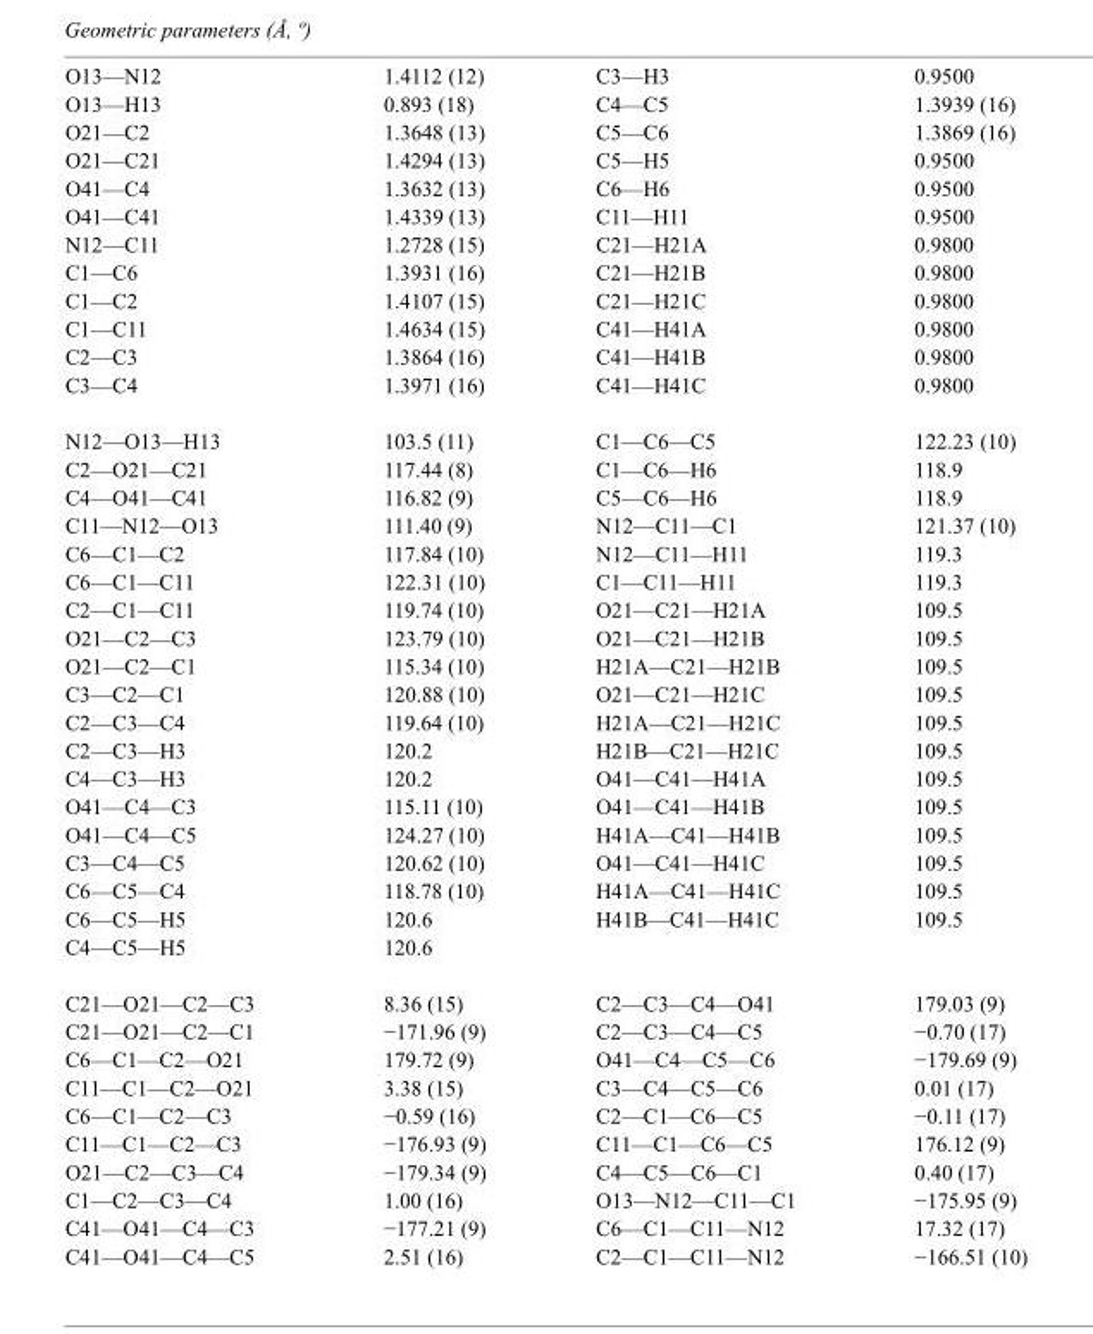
<table><tbody><tr><td>O13—N12</td><td>1.4112 (12)</td><td>C3—H3</td><td>0.9500</td></tr><tr><td>O13—H13</td><td>0.893 (18)</td><td>C4—C5</td><td>1.3939 (16)</td></tr><tr><td>O21—C2</td><td>1.3648 (13)</td><td>C5—C6</td><td>1.3869 (16)</td></tr><tr><td>O21—C21</td><td>1.4294 (13)</td><td>C5—H5</td><td>0.9500</td></tr><tr><td>O41—C4</td><td>1.3632 (13)</td><td>C6—H6</td><td>0.9500</td></tr><tr><td>O41—C41</td><td>1.4339 (13)</td><td>C11—H11</td><td>0.9500</td></tr><tr><td>N12—C11</td><td>1.2728 (15)</td><td>C21—H21A</td><td>0.9800</td></tr><tr><td>C1—C6</td><td>1.3931 (16)</td><td>C21—H21B</td><td>0.9800</td></tr><tr><td>C1—C2</td><td>1.4107 (15)</td><td>C21—H21C</td><td>0.9800</td></tr><tr><td>C1—C11</td><td>1.4634 (15)</td><td>C41—H41A</td><td>0.9800</td></tr><tr><td>C2—C3</td><td>1.3864 (16)</td><td>C41—H41B</td><td>0.9800</td></tr><tr><td>C3—C4</td><td>1.3971 (16)</td><td>C41—H41C</td><td>0.9800</td></tr><tr><td>N12—O13—H13</td><td>103.5 (11)</td><td>C1—C6—C5</td><td>122.23 (10)</td></tr><tr><td>C2—O21—C21</td><td>117.44 (8)</td><td>C1—C6—H6</td><td>118.9</td></tr><tr><td>C4—O41—C41</td><td>116.82 (9)</td><td>C5—C6—H6</td><td>118.9</td></tr><tr><td>C11—N12—O13</td><td>111.40 (9)</td><td>N12—C11—C1</td><td>121.37 (10)</td></tr><tr><td>C6—C1—C2</td><td>117.84 (10)</td><td>N12—C11—H11</td><td>119.3</td></tr><tr><td>C6—C1—C11</td><td>122.31 (10)</td><td>C1—C11—H11</td><td>119.3</td></tr><tr><td>C2—C1—C11</td><td>119.74 (10)</td><td>O21—C21—H21A</td><td>109.5</td></tr><tr><td>O21—C2—C3</td><td>123.79 (10)</td><td>O21—C21—H21B</td><td>109.5</td></tr><tr><td>O21—C2—C1</td><td>115.34 (10)</td><td>H21A—C21—H21B</td><td>109.5</td></tr><tr><td>C3—C2—C1</td><td>120.88 (10)</td><td>O21—C21—H21C</td><td>109.5</td></tr><tr><td>C2—C3—C4</td><td>119.64 (10)</td><td>H21A—C21—H21C</td><td>109.5</td></tr><tr><td>C2—C3—H3</td><td>120.2</td><td>H21B—C21—H21C</td><td>109.5</td></tr><tr><td>C4—C3—H3</td><td>120.2</td><td>O41—C41—H41A</td><td>109.5</td></tr><tr><td>O41—C4—C3</td><td>115.11 (10)</td><td>O41—C41—H41B</td><td>109.5</td></tr><tr><td>O41—C4—C5</td><td>124.27 (10)</td><td>H41A—C41—H41B</td><td>109.5</td></tr><tr><td>C3—C4—C5</td><td>120.62 (10)</td><td>O41—C41—H41C</td><td>109.5</td></tr><tr><td>C6—C5—C4</td><td>118.78 (10)</td><td>H41A—C41—H41C</td><td>109.5</td></tr><tr><td>C6—C5—H5</td><td>120.6</td><td>H41B—C41—H41C</td><td>109.5</td></tr><tr><td>C4—C5—H5</td><td>120.6</td><td></td><td></td></tr><tr><td>C21—O21—C2—C3</td><td>8.36 (15)</td><td>C2—C3—C4—O41</td><td>179.03 (9)</td></tr><tr><td>C21—O21—C2—C1</td><td>−171.96 (9)</td><td>C2—C3—C4—C5</td><td>−0.70 (17)</td></tr><tr><td>C6—C1—C2—O21</td><td>179.72 (9)</td><td>O41—C4—C5—C6</td><td>−179.69 (9)</td></tr><tr><td>C11—C1—C2—O21</td><td>3.38 (15)</td><td>C3—C4—C5—C6</td><td>0.01 (17)</td></tr><tr><td>C6—C1—C2—C3</td><td>−0.59 (16)</td><td>C2—C1—C6—C5</td><td>−0.11 (17)</td></tr><tr><td>C11—C1—C2—C3</td><td>−176.93 (9)</td><td>C11—C1—C6—C5</td><td>176.12 (9)</td></tr><tr><td>O21—C2—C3—C4</td><td>−179.34 (9)</td><td>C4—C5—C6—C1</td><td>0.40 (17)</td></tr><tr><td>C1—C2—C3—C4</td><td>1.00 (16)</td><td>O13—N12—C11—C1</td><td>−175.95 (9)</td></tr><tr><td>C41—O41—C4—C3</td><td>−177.21 (9)</td><td>C6—C1—C11—N12</td><td>17.32 (17)</td></tr><tr><td>C41—O41—C4—C5</td><td>2.51 (16)</td><td>C2—C1—C11—N12</td><td>−166.51 (10)</td></tr></tbody></table>